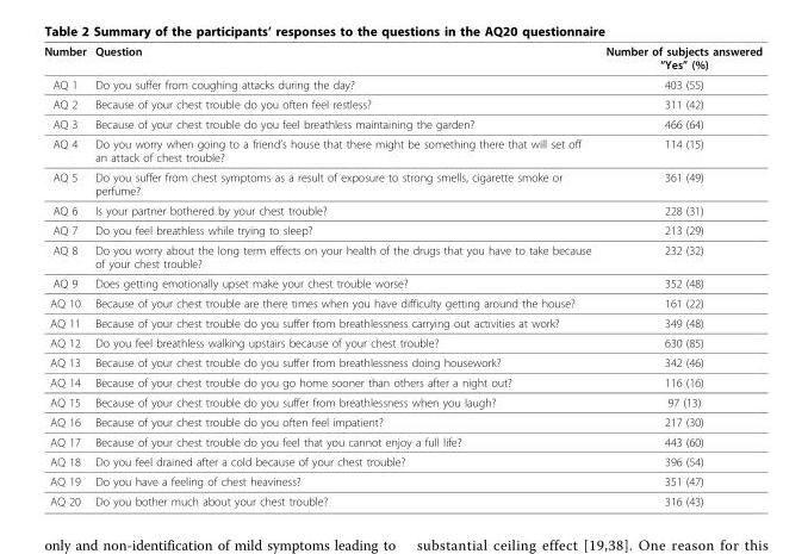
<table><thead><tr><td>Number</td><td>Question</td><td>Number of subjects answered “Yes” (%)</td></tr></thead><tbody><tr><td>AQ 1</td><td>Do you suffer from coughing attacks during the day?</td><td>403 (55)</td></tr><tr><td>AQ 2</td><td>Because of your chest trouble do you often feel restless?</td><td>311 (42)</td></tr><tr><td>AQ 3</td><td>Because of your chest trouble do you feel breathless maintaining the garden?</td><td>466 (64)</td></tr><tr><td>AQ 4</td><td>Do you worry when going to a friend’s house that there might be something there that will set off an attack of chest trouble?</td><td>114 (15)</td></tr><tr><td>AQ 5</td><td>Do you suffer from chest symptoms as a result of exposure to strong smells, cigarette smoke or perfume?</td><td>361 (49)</td></tr><tr><td>AQ 6</td><td>Is your partner bothered by your chest trouble?</td><td>228 (31)</td></tr><tr><td>AQ 7</td><td>Do you feel breathless while trying to sleep?</td><td>213 (29)</td></tr><tr><td>AQ 8</td><td>Do you worry about the long term effects on your health of the drugs that you have to take because of your chest trouble?</td><td>232 (32)</td></tr><tr><td>AQ 9</td><td>Does getting emotionally upset make your chest trouble worse?</td><td>352 (48)</td></tr><tr><td>AQ 10</td><td>Because of your chest trouble are there times when you have difficulty getting around the house?</td><td>161 (22)</td></tr><tr><td>AQ 11</td><td>Because of your chest trouble do you suffer from breathlessness carrying out activities at work?</td><td>349 (48)</td></tr><tr><td>AQ 12</td><td>Do you feel breathless walking upstairs because of your chest trouble?</td><td>630 (85)</td></tr><tr><td>AQ 13</td><td>Because of your chest trouble do you suffer from breathlessness doing housework?</td><td>342 (46)</td></tr><tr><td>AQ 14</td><td>Because of your chest trouble do you go home sooner than others after a night out?</td><td>116 (16)</td></tr><tr><td>AQ 15</td><td>Because of your chest trouble do you suffer from breathlessness when you laugh?</td><td>97 (13)</td></tr><tr><td>AQ 16</td><td>Because of your chest trouble do you often feel impatient?</td><td>217 (30)</td></tr><tr><td>AQ 17</td><td>Because of your chest trouble do you feel that you cannot enjoy a full life?</td><td>443 (60)</td></tr><tr><td>AQ 18</td><td>Do you feel drained after a cold because of your chest trouble?</td><td>396 (54)</td></tr><tr><td>AQ 19</td><td>Do you have a feeling of chest heaviness?</td><td>351 (47)</td></tr><tr><td>AQ 20</td><td>Do you bother much about your chest trouble?</td><td>316 (43)</td></tr></tbody></table>